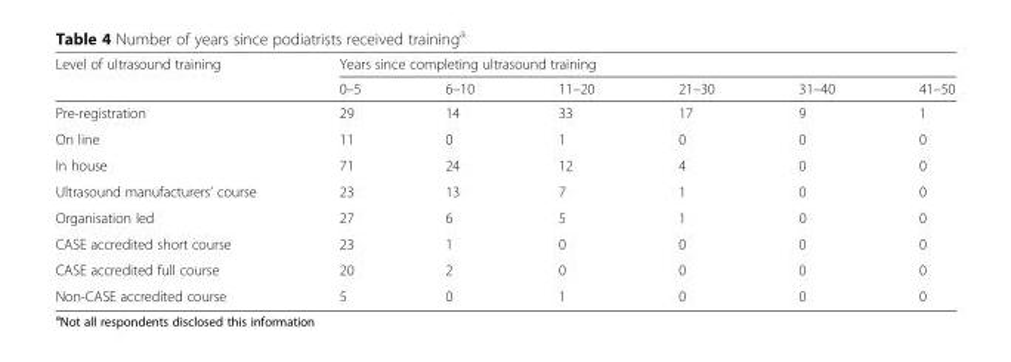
<table><thead><tr><td rowspan="2">Level of ultrasound training</td><td colspan="6">Years since completing ultrasound training</td></tr><tr><td>0–5</td><td>6–10</td><td>11–20</td><td>21–30</td><td>31–40</td><td>41–50</td></tr></thead><tbody><tr><td>Pre-registration</td><td>29</td><td>14</td><td>33</td><td>17</td><td>9</td><td>1</td></tr><tr><td>On line</td><td>11</td><td>0</td><td>1</td><td>0</td><td>0</td><td>0</td></tr><tr><td>In house</td><td>71</td><td>24</td><td>12</td><td>4</td><td>0</td><td>0</td></tr><tr><td>Ultrasound manufacturers’ course</td><td>23</td><td>13</td><td>7</td><td>1</td><td>0</td><td>0</td></tr><tr><td>Organisation led</td><td>27</td><td>6</td><td>5</td><td>1</td><td>0</td><td>0</td></tr><tr><td>CASE accredited short course</td><td>23</td><td>1</td><td>0</td><td>0</td><td>0</td><td>0</td></tr><tr><td>CASE accredited full course</td><td>20</td><td>2</td><td>0</td><td>0</td><td>0</td><td>0</td></tr><tr><td>Non-CASE accredited course</td><td>5</td><td>0</td><td>1</td><td>0</td><td>0</td><td>0</td></tr></tbody></table>